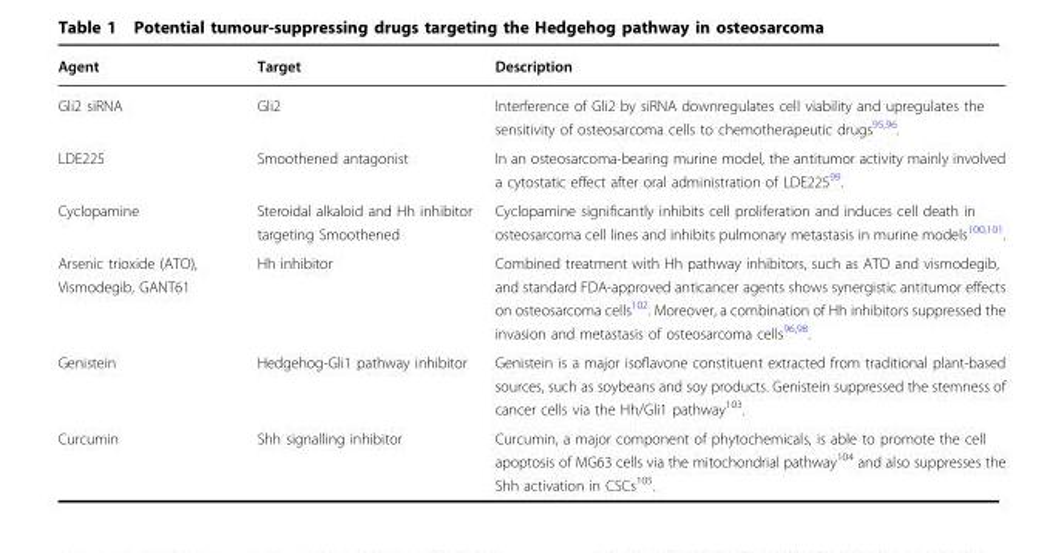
<table><thead><tr><td>Agent</td><td>Target</td><td>Description</td></tr></thead><tbody><tr><td>Gli2 siRNA</td><td>Gli2</td><td>Interference of Gli2 by siRNA downregulates cell viability and upregulates the sensitivity of osteosarcoma cells to chemotherapeutic drugs<sup>95,96</sup>.</td></tr><tr><td>LDE225</td><td>Smoothened antagonist</td><td>In an osteosarcoma-bearing murine model, the antitumor activity mainly involved a cytostatic effect after oral administration of LDE225<sup>99</sup>.</td></tr><tr><td>Cyclopamine</td><td>Steroidal alkaloid and Hh inhibitor targeting Smoothened</td><td>Cyclopamine significantly inhibits cell proliferation and induces cell death in osteosarcoma cell lines and inhibits pulmonary metastasis in murine models<sup>100,101</sup>.</td></tr><tr><td>Arsenic trioxide (ATO), Vismodegib, GANT61</td><td>Hh inhibitor</td><td>Combined treatment with Hh pathway inhibitors, such as ATO and vismodegib, and standard FDA-approved anticancer agents shows synergistic antitumor effects on osteosarcoma cells<sup>102</sup>. Moreover, a combination of Hh inhibitors suppressed the invasion and metastasis of osteosarcoma cells<sup>96,98</sup>.</td></tr><tr><td>Genistein</td><td>Hedgehog-Gli1 pathway inhibitor</td><td>Genistein is a major isoflavone constituent extracted from traditional plant-based sources, such as soybeans and soy products. Genistein suppressed the stemness of cancer cells via the Hh/Gli1 pathway<sup>103</sup>.</td></tr><tr><td>Curcumin</td><td>Shh signalling inhibitor</td><td>Curcumin, a major component of phytochemicals, is able to promote the cell apoptosis of MG63 cells via the mitochondrial pathway<sup>104</sup> and also suppresses the Shh activation in CSCs<sup>105</sup>.</td></tr></tbody></table>